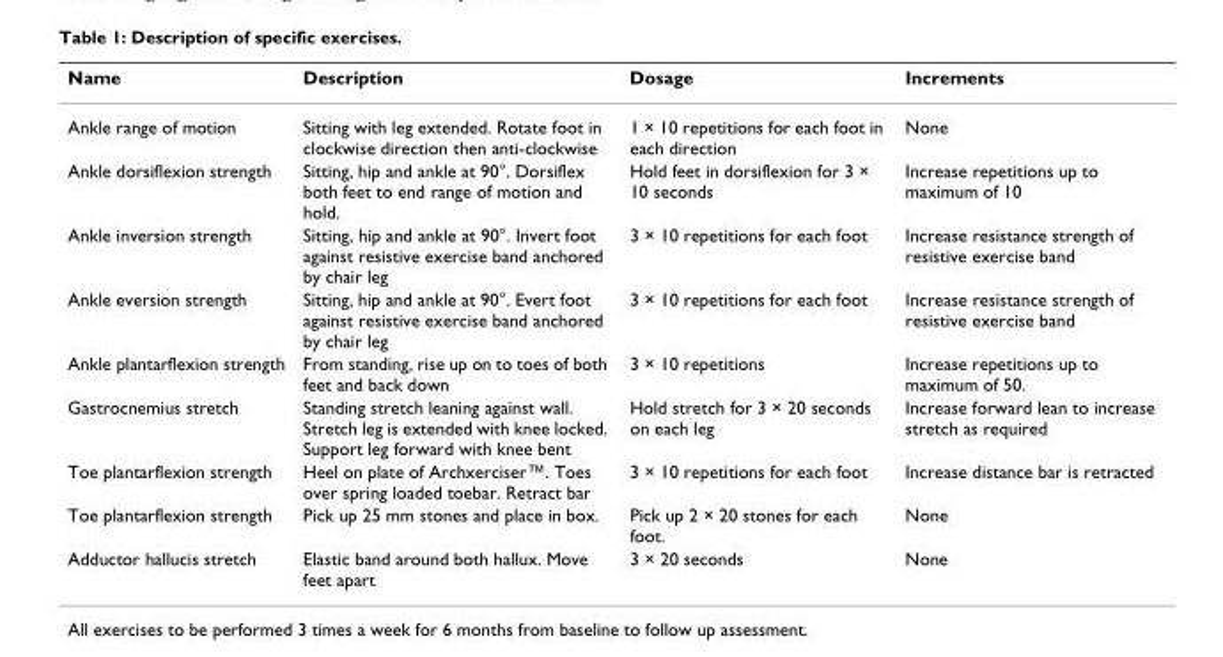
<table><thead><tr><td>Name</td><td>Description</td><td>Dosage</td><td>Increments</td></tr></thead><tbody><tr><td>Ankle range of motion</td><td>Sitting with leg extended. Rotate foot in clockwise direction then anti-clockwise</td><td>1 × 10 repetitions for each foot in each direction</td><td>None</td></tr><tr><td>Ankle dorsiflexion strength</td><td>Sitting, hip and ankle at 90°. Dorsiflex both feet to end range of motion and hold.</td><td>Hold feet in dorsiflexion for 3 × 10 seconds</td><td>Increase repetitions up to maximum of 10</td></tr><tr><td>Ankle inversion strength</td><td>Sitting, hip and ankle at 90°. Invert foot against resistive exercise band anchored by chair leg</td><td>3 × 10 repetitions for each foot</td><td>Increase resistance strength of resistive exercise band</td></tr><tr><td>Ankle eversion strength</td><td>Sitting, hip and ankle at 90°. Evert foot against resistive exercise band anchored by chair leg</td><td>3 × 10 repetitions for each foot</td><td>Increase resistance strength of resistive exercise band</td></tr><tr><td>Ankle plantarflexion strength</td><td>From standing, rise up on to toes of both feet and back down</td><td>3 × 10 repetitions</td><td>Increase repetitions up to maximum of 50.</td></tr><tr><td>Gastrocnemius stretch</td><td>Standing stretch leaning against wall. Stretch leg is extended with knee locked. Support leg forward with knee bent</td><td>Hold stretch for 3 × 20 seconds on each leg</td><td>Increase forward lean to increase stretch as required</td></tr><tr><td>Toe plantarflexion strength</td><td>Heel on plate of Archxerciser™. Toes over spring loaded toebar. Retract bar</td><td>3 × 10 repetitions for each foot</td><td>Increase distance bar is retracted</td></tr><tr><td>Toe plantarflexion strength</td><td>Pick up 25 mm stones and place in box.</td><td>Pick up 2 × 20 stones for each foot.</td><td>None</td></tr><tr><td>Adductor hallucis stretch</td><td>Elastic band around both hallux. Move feet apart</td><td>3 × 20 seconds</td><td>None</td></tr></tbody></table>